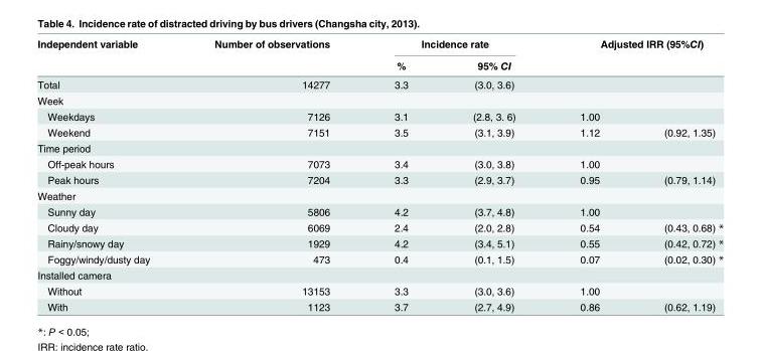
<table><thead><tr><td rowspan="2">Independent variable</td><td rowspan="2">Number of observations</td><td colspan="2">Incidence rate</td><td colspan="2">Adjusted IRR (95%CI)</td></tr><tr><td>%</td><td>95% CI</td><td></td><td></td></tr></thead><tbody><tr><td>Total</td><td>14277</td><td>3.3</td><td>(3.0, 3.6)</td><td></td><td></td></tr><tr><td colspan="6">Week</td></tr><tr><td>Weekdays</td><td>7126</td><td>3.1</td><td>(2.8, 3. 6)</td><td>1.00</td><td></td></tr><tr><td>Weekend</td><td>7151</td><td>3.5</td><td>(3.1, 3.9)</td><td>1.12</td><td>(0.92, 1.35)</td></tr><tr><td colspan="6">Time period</td></tr><tr><td>Off-peak hours</td><td>7073</td><td>3.4</td><td>(3.0, 3.8)</td><td>1.00</td><td></td></tr><tr><td>Peak hours</td><td>7204</td><td>3.3</td><td>(2.9, 3.7)</td><td>0.95</td><td>(0.79, 1.14)</td></tr><tr><td colspan="6">Weather</td></tr><tr><td>Sunny day</td><td>5806</td><td>4.2</td><td>(3.7, 4.8)</td><td>1.00</td><td></td></tr><tr><td>Cloudy day</td><td>6069</td><td>2.4</td><td>(2.0, 2.8)</td><td>0.54</td><td>(0.43, 0.68) *</td></tr><tr><td>Rainy/snowy day</td><td>1929</td><td>4.2</td><td>(3.4, 5.1)</td><td>0.55</td><td>(0.42, 0.72) *</td></tr><tr><td>Foggy/windy/dusty day</td><td>473</td><td>0.4</td><td>(0.1, 1.5)</td><td>0.07</td><td>(0.02, 0.30) *</td></tr><tr><td colspan="6">Installed camera</td></tr><tr><td>Without</td><td>13153</td><td>3.3</td><td>(3.0, 3.6)</td><td>1.00</td><td></td></tr><tr><td>With</td><td>1123</td><td>3.7</td><td>(2.7, 4.9)</td><td>0.86</td><td>(0.62, 1.19)</td></tr></tbody></table>